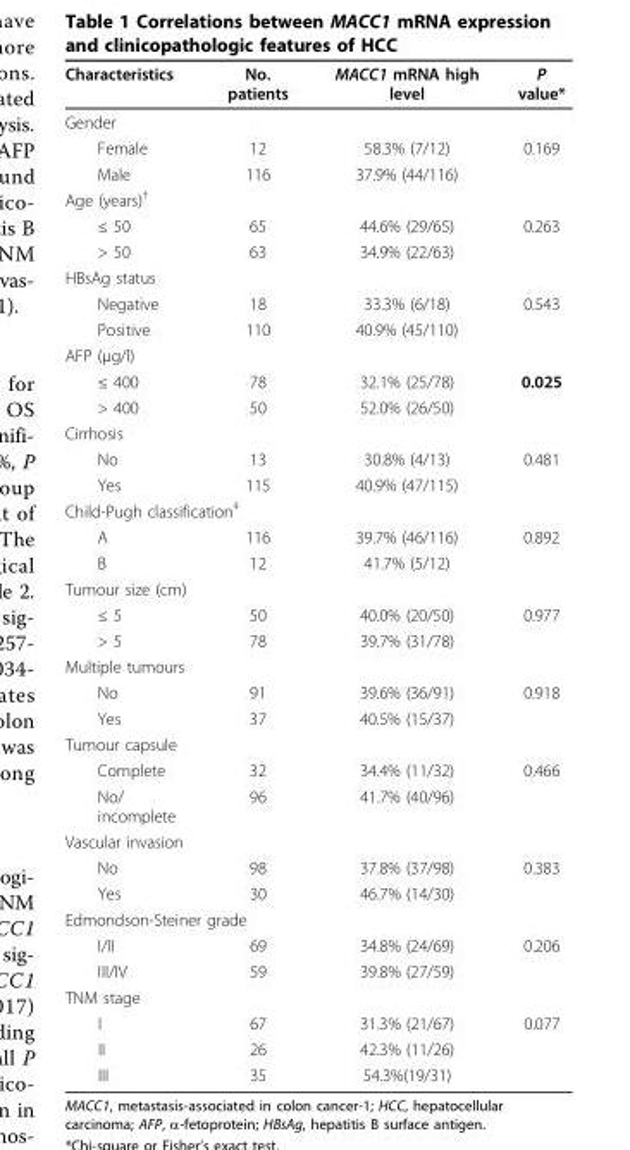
<table><thead><tr><td>Characteristics</td><td>No. patients</td><td>MACC1 mRNA high level</td><td>P value*</td></tr></thead><tbody><tr><td colspan="4">Gender</td></tr><tr><td>Female</td><td>12</td><td>58.3% (7/12)</td><td>0.169</td></tr><tr><td>Male</td><td>116</td><td>37.9% (44/116)</td><td></td></tr><tr><td colspan="4">Age (years)<sup>†</sup></td></tr><tr><td>≤ 50</td><td>65</td><td>44.6% (29/65)</td><td>0.263</td></tr><tr><td>&gt; 50</td><td>63</td><td>34.9% (22/63)</td><td></td></tr><tr><td colspan="4">HBsAg status</td></tr><tr><td>Negative</td><td>18</td><td>33.3% (6/18)</td><td>0.543</td></tr><tr><td>Positive</td><td>110</td><td>40.9% (45/110)</td><td></td></tr><tr><td colspan="4">AFP (μg/l)</td></tr><tr><td>≤ 400</td><td>78</td><td>32.1% (25/78)</td><td>0.025</td></tr><tr><td>&gt; 400</td><td>50</td><td>52.0% (26/50)</td><td></td></tr><tr><td colspan="4">Cirrhosis</td></tr><tr><td>No</td><td>13</td><td>30.8% (4/13)</td><td>0.481</td></tr><tr><td>Yes</td><td>115</td><td>40.9% (47/115)</td><td></td></tr><tr><td colspan="4">Child-Pugh classification<sup>‡</sup></td></tr><tr><td>A</td><td>116</td><td>39.7% (46/116)</td><td>0.892</td></tr><tr><td>B</td><td>12</td><td>41.7% (5/12)</td><td></td></tr><tr><td colspan="4">Tumour size (cm)</td></tr><tr><td>≤ 5</td><td>50</td><td>40.0% (20/50)</td><td>0.977</td></tr><tr><td>&gt; 5</td><td>78</td><td>39.7% (31/78)</td><td></td></tr><tr><td colspan="4">Multiple tumours</td></tr><tr><td>No</td><td>91</td><td>39.6% (36/91)</td><td>0.918</td></tr><tr><td>Yes</td><td>37</td><td>40.5% (15/37)</td><td></td></tr><tr><td colspan="4">Tumour capsule</td></tr><tr><td>Complete</td><td>32</td><td>34.4% (11/32)</td><td>0.466</td></tr><tr><td>No/ incomplete</td><td>96</td><td>41.7% (40/96)</td><td></td></tr><tr><td colspan="4">Vascular invasion</td></tr><tr><td>No</td><td>98</td><td>37.8% (37/98)</td><td>0.383</td></tr><tr><td>Yes</td><td>30</td><td>46.7% (14/30)</td><td></td></tr><tr><td colspan="4">Edmondson-Steiner grade</td></tr><tr><td>I/II</td><td>69</td><td>34.8% (24/69)</td><td>0.206</td></tr><tr><td>III/IV</td><td>59</td><td>39.8% (27/59)</td><td></td></tr><tr><td colspan="4">TNM stage</td></tr><tr><td>I</td><td>67</td><td>31.3% (21/67)</td><td>0.077</td></tr><tr><td>II</td><td>26</td><td>42.3% (11/26)</td><td></td></tr><tr><td>III</td><td>35</td><td>54.3%(19/31)</td><td></td></tr></tbody></table>